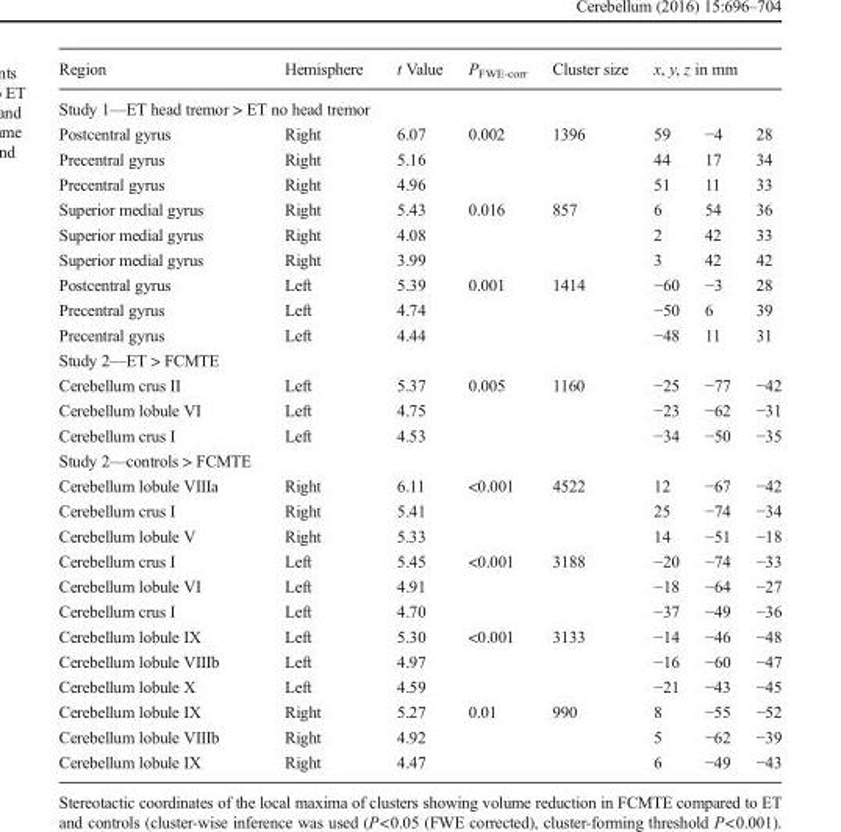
<table><thead><tr><td>Region</td><td>Hemisphere</td><td rowspan="2">t Value</td><td rowspan="2">P<sub>FWE-corr</sub></td><td rowspan="2">Cluster size</td><td colspan="3">x, y, z in mm</td></tr><tr><td colspan="2">Study 1—ET head tremor &gt; ET no head tremor</td><td></td><td></td><td></td></tr></thead><tbody><tr><td>Postcentral gyrus</td><td>Right</td><td>6.07</td><td>0.002</td><td>1396</td><td>59</td><td>−4</td><td>28</td></tr><tr><td>Precentral gyrus</td><td>Right</td><td>5.16</td><td></td><td></td><td>44</td><td>17</td><td>34</td></tr><tr><td>Precentral gyrus</td><td>Right</td><td>4.96</td><td></td><td></td><td>51</td><td>11</td><td>33</td></tr><tr><td>Superior medial gyrus</td><td>Right</td><td>5.43</td><td>0.016</td><td>857</td><td>6</td><td>54</td><td>36</td></tr><tr><td>Superior medial gyrus</td><td>Right</td><td>4.08</td><td></td><td></td><td>2</td><td>42</td><td>33</td></tr><tr><td>Superior medial gyrus</td><td>Right</td><td>3.99</td><td></td><td></td><td>3</td><td>42</td><td>42</td></tr><tr><td>Postcentral gyrus</td><td>Left</td><td>5.39</td><td>0.001</td><td>1414</td><td>−60</td><td>−3</td><td>28</td></tr><tr><td>Precentral gyrus</td><td>Left</td><td>4.74</td><td></td><td></td><td>−50</td><td>6</td><td>39</td></tr><tr><td>Precentral gyrus</td><td>Left</td><td>4.44</td><td></td><td></td><td>−48</td><td>11</td><td>31</td></tr><tr><td colspan="8">Study 2—ET &gt; FCMTE</td></tr><tr><td>Cerebellum crus II</td><td>Left</td><td>5.37</td><td>0.005</td><td>1160</td><td>−25</td><td>−77</td><td>−42</td></tr><tr><td>Cerebellum lobule VI</td><td>Left</td><td>4.75</td><td></td><td></td><td>−23</td><td>−62</td><td>−31</td></tr><tr><td>Cerebellum crus I</td><td>Left</td><td>4.53</td><td></td><td></td><td>−34</td><td>−50</td><td>−35</td></tr><tr><td colspan="8">Study 2—controls &gt; FCMTE</td></tr><tr><td>Cerebellum lobule VIIIa</td><td>Right</td><td>6.11</td><td>&lt;0.001</td><td>4522</td><td>12</td><td>−67</td><td>−42</td></tr><tr><td>Cerebellum crus I</td><td>Right</td><td>5.41</td><td></td><td></td><td>25</td><td>−74</td><td>−34</td></tr><tr><td>Cerebellum lobule V</td><td>Right</td><td>5.33</td><td></td><td></td><td>14</td><td>−51</td><td>−18</td></tr><tr><td>Cerebellum crus I</td><td>Left</td><td>5.45</td><td>&lt;0.001</td><td>3188</td><td>−20</td><td>−74</td><td>−33</td></tr><tr><td>Cerebellum lobule VI</td><td>Left</td><td>4.91</td><td></td><td></td><td>−18</td><td>−64</td><td>−27</td></tr><tr><td>Cerebellum crus I</td><td>Left</td><td>4.70</td><td></td><td></td><td>−37</td><td>−49</td><td>−36</td></tr><tr><td>Cerebellum lobule IX</td><td>Left</td><td>5.30</td><td>&lt;0.001</td><td>3133</td><td>−14</td><td>−46</td><td>−48</td></tr><tr><td>Cerebellum lobule VIIIb</td><td>Left</td><td>4.97</td><td></td><td></td><td>−16</td><td>−60</td><td>−47</td></tr><tr><td>Cerebellum lobule X</td><td>Left</td><td>4.59</td><td></td><td></td><td>−21</td><td>−43</td><td>−45</td></tr><tr><td>Cerebellum lobule IX</td><td>Right</td><td>5.27</td><td>0.01</td><td>990</td><td>8</td><td>−55</td><td>−52</td></tr><tr><td>Cerebellum lobule VIIIb</td><td>Right</td><td>4.92</td><td></td><td></td><td>5</td><td>−62</td><td>−39</td></tr><tr><td>Cerebellum lobule IX</td><td>Right</td><td>4.47</td><td></td><td></td><td>6</td><td>−49</td><td>−43</td></tr></tbody></table>